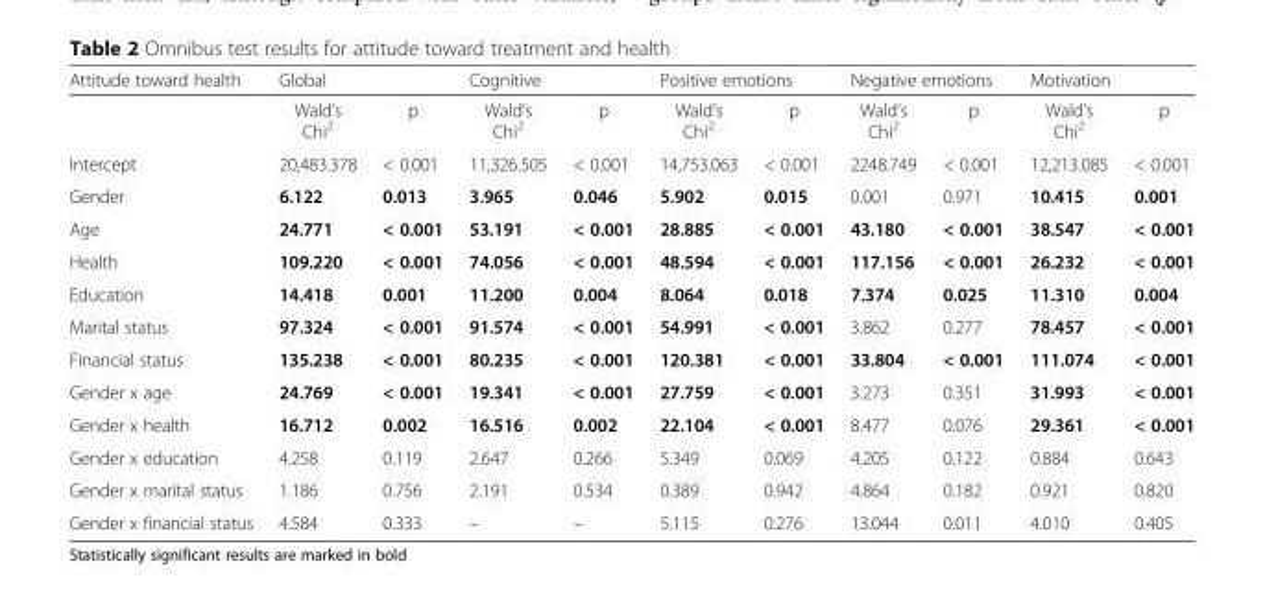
<table><thead><tr><td rowspan="2">Attitude toward health</td><td colspan="2">Global</td><td colspan="2">Cognitive</td><td colspan="2">Positive emotions</td><td colspan="2">Negative emotions</td><td colspan="2">Motivation</td></tr><tr><td>Wald’s Chi<sup>2</sup></td><td>p</td><td>Wald’s Chi<sup>2</sup></td><td>p</td><td>Wald’s Chi<sup>2</sup></td><td>p</td><td>Wald’s Chi<sup>2</sup></td><td>p</td><td>Wald’s Chi<sup>2</sup></td><td>p</td></tr></thead><tbody><tr><td>Intercept</td><td>20,483.378</td><td>&lt; 0.001</td><td>11,326.505</td><td>&lt; 0.001</td><td>14,753.063</td><td>&lt; 0.001</td><td>2248.749</td><td>&lt; 0.001</td><td>12,213.085</td><td>&lt; 0.001</td></tr><tr><td>Gender</td><td>6.122</td><td>0.013</td><td>3.965</td><td>0.046</td><td>5.902</td><td>0.015</td><td>0.001</td><td>0.971</td><td>10.415</td><td>0.001</td></tr><tr><td>Age</td><td>24.771</td><td>&lt; 0.001</td><td>53.191</td><td>&lt; 0.001</td><td>28.885</td><td>&lt; 0.001</td><td>43.180</td><td>&lt; 0.001</td><td>38.547</td><td>&lt; 0.001</td></tr><tr><td>Health</td><td>109.220</td><td>&lt; 0.001</td><td>74.056</td><td>&lt; 0.001</td><td>48.594</td><td>&lt; 0.001</td><td>117.156</td><td>&lt; 0.001</td><td>26.232</td><td>&lt; 0.001</td></tr><tr><td>Education</td><td>14.418</td><td>0.001</td><td>11.200</td><td>0.004</td><td>8.064</td><td>0.018</td><td>7.374</td><td>0.025</td><td>11.310</td><td>0.004</td></tr><tr><td>Marital status</td><td>97.324</td><td>&lt; 0.001</td><td>91.574</td><td>&lt; 0.001</td><td>54.991</td><td>&lt; 0.001</td><td>3.862</td><td>0.277</td><td>78.457</td><td>&lt; 0.001</td></tr><tr><td>Financial status</td><td>135.238</td><td>&lt; 0.001</td><td>80.235</td><td>&lt; 0.001</td><td>120.381</td><td>&lt; 0.001</td><td>33.804</td><td>&lt; 0.001</td><td>111.074</td><td>&lt; 0.001</td></tr><tr><td>Gender x age</td><td>24.769</td><td>&lt; 0.001</td><td>19.341</td><td>&lt; 0.001</td><td>27.759</td><td>&lt; 0.001</td><td>3.273</td><td>0.351</td><td>31.993</td><td>&lt; 0.001</td></tr><tr><td>Gender x health</td><td>16.712</td><td>0.002</td><td>16.516</td><td>0.002</td><td>22.104</td><td>&lt; 0.001</td><td>8.477</td><td>0.076</td><td>29.361</td><td>&lt; 0.001</td></tr><tr><td>Gender x education</td><td>4.258</td><td>0.119</td><td>2.647</td><td>0.266</td><td>5.349</td><td>0.069</td><td>4.205</td><td>0.122</td><td>0.884</td><td>0.643</td></tr><tr><td>Gender x marital status</td><td>1.186</td><td>0.756</td><td>2.191</td><td>0.534</td><td>0.389</td><td>0.942</td><td>4.864</td><td>0.182</td><td>0.921</td><td>0.820</td></tr><tr><td>Gender x financial status</td><td>4.584</td><td>0.333</td><td>–</td><td>–</td><td>5.115</td><td>0.276</td><td>13.044</td><td>0.011</td><td>4.010</td><td>0.405</td></tr></tbody></table>